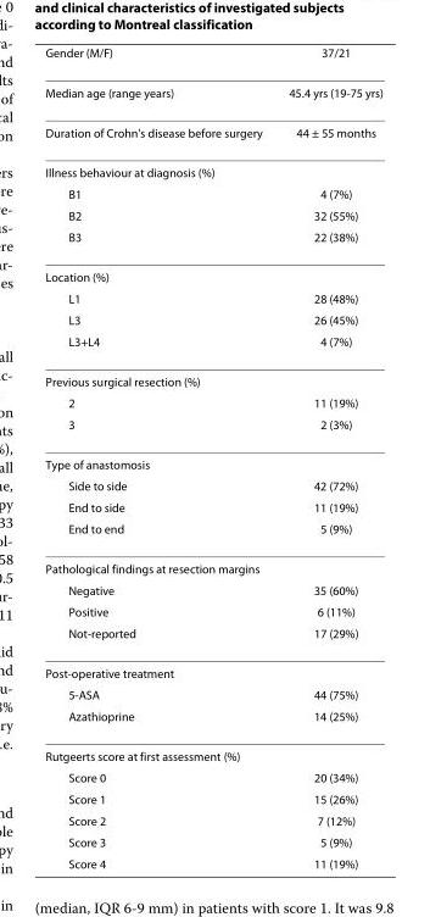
<table><thead><tr><td>Gender (M/F)</td><td>37/21</td></tr></thead><tbody><tr><td>Median age (range years)</td><td>45.4 yrs (19-75 yrs)</td></tr><tr><td>Duration of Crohn&#x27;s disease before surgery</td><td>44 ± 55 months</td></tr><tr><td colspan="2">Illness behaviour at diagnosis (%)</td></tr><tr><td>B1</td><td>4 (7%)</td></tr><tr><td>B2</td><td>32 (55%)</td></tr><tr><td>B3</td><td>22 (38%)</td></tr><tr><td colspan="2">Location (%)</td></tr><tr><td>L1</td><td>28 (48%)</td></tr><tr><td>L3</td><td>26 (45%)</td></tr><tr><td>L3+L4</td><td>4 (7%)</td></tr><tr><td colspan="2">Previous surgical resection (%)</td></tr><tr><td>2</td><td>11 (19%)</td></tr><tr><td>3</td><td>2 (3%)</td></tr><tr><td colspan="2">Type of anastomosis</td></tr><tr><td>Side to side</td><td>42 (72%)</td></tr><tr><td>End to side</td><td>11 (19%)</td></tr><tr><td>End to end</td><td>5 (9%)</td></tr><tr><td colspan="2">Pathological findings at resection margins</td></tr><tr><td>Negative</td><td>35 (60%)</td></tr><tr><td>Positive</td><td>6 (11%)</td></tr><tr><td>Not-reported</td><td>17 (29%)</td></tr><tr><td colspan="2">Post-operative treatment</td></tr><tr><td>5-ASA</td><td>44 (75%)</td></tr><tr><td>Azathioprine</td><td>14 (25%)</td></tr><tr><td colspan="2">Rutgeerts score at first assessment (%)</td></tr><tr><td>Score 0</td><td>20 (34%)</td></tr><tr><td>Score 1</td><td>15 (26%)</td></tr><tr><td>Score 2</td><td>7 (12%)</td></tr><tr><td>Score 3</td><td>5 (9%)</td></tr><tr><td>Score 4</td><td>11 (19%)</td></tr></tbody></table>